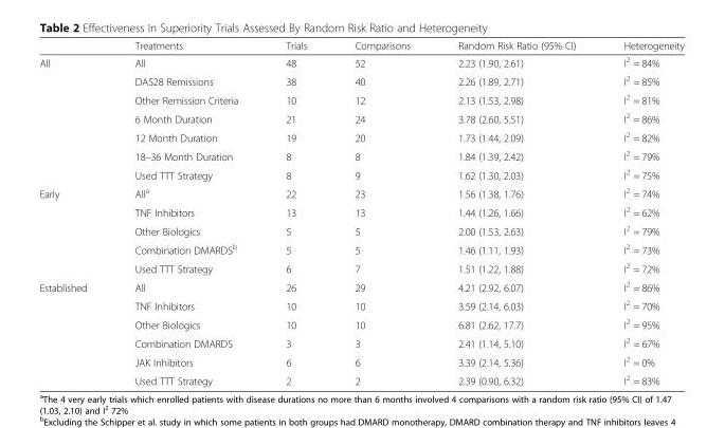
<table><thead><tr><td></td><td>Treatments</td><td>Trials</td><td>Comparisons</td><td>Random Risk Ratio (95% CI)</td><td>Heterogeneity</td></tr></thead><tbody><tr><td rowspan="7">All</td><td>All</td><td>48</td><td>52</td><td>2.23 (1.90, 2.61)</td><td>I<sup>2</sup> = 84%</td></tr><tr><td>DAS28 Remissions</td><td>38</td><td>40</td><td>2.26 (1.89, 2.71)</td><td>I<sup>2</sup> = 85%</td></tr><tr><td>Other Remission Criteria</td><td>10</td><td>12</td><td>2.13 (1.53, 2.98)</td><td>I<sup>2</sup> = 81%</td></tr><tr><td>6 Month Duration</td><td>21</td><td>24</td><td>3.78 (2.60, 5.51)</td><td>I<sup>2</sup> = 86%</td></tr><tr><td>12 Month Duration</td><td>19</td><td>20</td><td>1.73 (1.44, 2.09)</td><td>I<sup>2</sup> = 82%</td></tr><tr><td>18–36 Month Duration</td><td>8</td><td>8</td><td>1.84 (1.39, 2.42)</td><td>I<sup>2</sup> = 79%</td></tr><tr><td>Used TTT Strategy</td><td>8</td><td>9</td><td>1.62 (1.30, 2.03)</td><td>I<sup>2</sup> = 75%</td></tr><tr><td rowspan="5">Early</td><td>All<sup>a</sup></td><td>22</td><td>23</td><td>1.56 (1.38, 1.76)</td><td>I<sup>2</sup> = 74%</td></tr><tr><td>TNF Inhibitors</td><td>13</td><td>13</td><td>1.44 (1.26, 1.66)</td><td>I<sup>2</sup> = 62%</td></tr><tr><td>Other Biologics</td><td>5</td><td>5</td><td>2.00 (1.53, 2.63)</td><td>I<sup>2</sup> = 79%</td></tr><tr><td>Combination DMARDS<sup>b</sup></td><td>5</td><td>5</td><td>1.46 (1.11, 1.93)</td><td>I<sup>2</sup> = 73%</td></tr><tr><td>Used TTT Strategy</td><td>6</td><td>7</td><td>1.51 (1.22, 1.88)</td><td>I<sup>2</sup> = 72%</td></tr><tr><td rowspan="6">Established</td><td>All</td><td>26</td><td>29</td><td>4.21 (2.92, 6.07)</td><td>I<sup>2</sup> = 86%</td></tr><tr><td>TNF Inhibitors</td><td>10</td><td>10</td><td>3.59 (2.14, 6.03)</td><td>I<sup>2</sup> = 70%</td></tr><tr><td>Other Biologics</td><td>10</td><td>10</td><td>6.81 (2.62, 17.7)</td><td>I<sup>2</sup> = 95%</td></tr><tr><td>Combination DMARDS</td><td>3</td><td>3</td><td>2.41 (1.14, 5.10)</td><td>I<sup>2</sup> = 67%</td></tr><tr><td>JAK Inhibitors</td><td>6</td><td>6</td><td>3.39 (2.14, 5.36)</td><td>I<sup>2</sup> = 0%</td></tr><tr><td>Used TTT Strategy</td><td>2</td><td>2</td><td>2.39 (0.90, 6.32)</td><td>I<sup>2</sup> = 83%</td></tr></tbody></table>